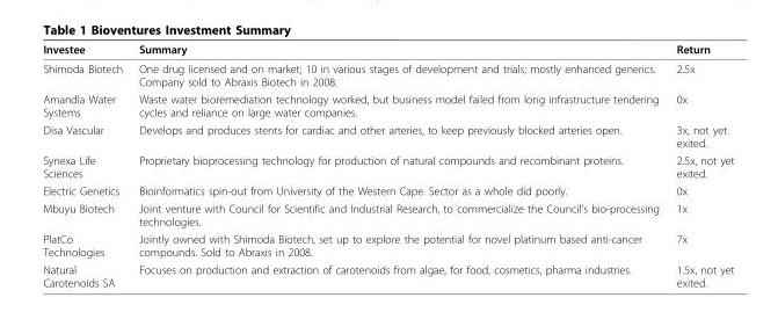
<table><thead><tr><td>Investee</td><td>Summary</td><td>Return</td></tr></thead><tbody><tr><td>Shimoda Biotech</td><td>One drug licensed and on market; 10 in various stages of development and trials; mostly enhanced generics. Company sold to Abraxis Biotech in 2008.</td><td>2.5x</td></tr><tr><td>Amandla Water Systems</td><td>Waste water bioremediation technology worked, but business model failed from long infrastructure tendering cycles and reliance on large water companies.</td><td>0x</td></tr><tr><td>Disa Vascular</td><td>Develops and produces stents for cardiac and other arteries, to keep previously blocked arteries open.</td><td>3x, not yet exited.</td></tr><tr><td>Synexa Life Sciences</td><td>Proprietary bioprocessing technology for production of natural compounds and recombinant proteins.</td><td>2.5x, not yet exited.</td></tr><tr><td>Electric Genetics</td><td>Bioinformatics spin-out from University of the Western Cape. Sector as a whole did poorly.</td><td>0x</td></tr><tr><td>Mbuyu Biotech</td><td>Joint venture with Council for Scientific and Industrial Research, to commercialize the Council’s bio-processing technologies.</td><td>1x</td></tr><tr><td>PlatCo Technologies</td><td>Jointly owned with Shimoda Biotech, set up to explore the potential for novel platinum based anti-cancer compounds. Sold to Abraxis in 2008.</td><td>7x</td></tr><tr><td>Natural Carotenoids SA</td><td>Focuses on production and extraction of carotenoids from algae, for food, cosmetics, pharma industries.</td><td>1.5x, not yet exited.</td></tr></tbody></table>